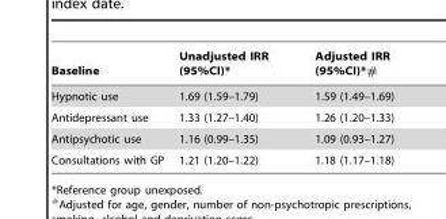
<table><thead><tr><td>Baseline</td><td>Unadjusted IRR (95%CI)*</td><td>Adjusted IRR (95%CI)*#</td></tr></thead><tbody><tr><td>Hypnotic use</td><td>1.69 (1.59–1.79)</td><td>1.59 (1.49–1.69)</td></tr><tr><td>Antidepressant use</td><td>1.33 (1.27–1.40)</td><td>1.26 (1.20–1.33)</td></tr><tr><td>Antipsychotic use</td><td>1.16 (0.99–1.35)</td><td>1.09 (0.93–1.27)</td></tr><tr><td>Consultations with GP</td><td>1.21 (1.20–1.22)</td><td>1.18 (1.17–1.18)</td></tr></tbody></table>